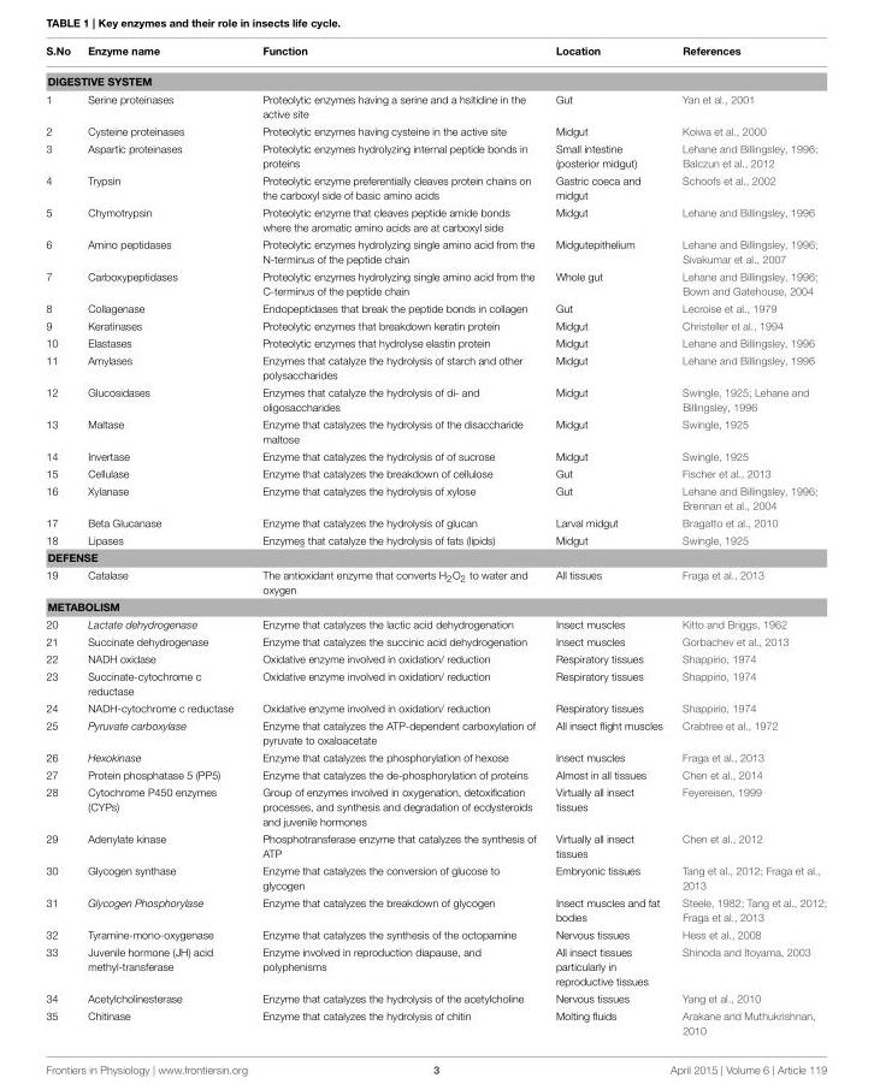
<table><thead><tr><td>S.No</td><td>Enzyme name</td><td>Function</td><td>Location</td><td>References</td></tr></thead><tbody><tr><td colspan="5">DIGESTIVE SYSTEM</td></tr><tr><td>1</td><td>Serine proteinases</td><td>Proteolytic enzymes having a serine and a hsitidine in the active site</td><td>Gut</td><td>Yan et al., 2001</td></tr><tr><td>2</td><td>Cysteine proteinases</td><td>Proteolytic enzymes having cysteine in the active site</td><td>Midgut</td><td>Koiwa et al., 2000</td></tr><tr><td>3</td><td>Aspartic proteinases</td><td>Proteolytic enzymes hydrolyzing internal peptide bonds in proteins</td><td>Small intestine (posterior midgut)</td><td>Lehane and Billingsley, 1996; Balczun et al., 2012</td></tr><tr><td>4</td><td>Trypsin</td><td>Proteolytic enzyme preferentially cleaves protein chains on the carboxyl side of basic amino acids</td><td>Gastric coeca and midgut</td><td>Schoofs et al., 2002</td></tr><tr><td>5</td><td>Chymotrypsin</td><td>Proteolytic enzyme that cleaves peptide amide bonds where the aromatic amino acids are at carboxyl side</td><td>Midgut</td><td>Lehane and Billingsley, 1996</td></tr><tr><td>6</td><td>Amino peptidases</td><td>Proteolytic enzymes hydrolyzing single amino acid from the N-terminus of the peptide chain</td><td>Midgutepithelium</td><td>Lehane and Billingsley, 1996; Sivakumar et al., 2007</td></tr><tr><td>7</td><td>Carboxypeptidases</td><td>Proteolytic enzymes hydrolyzing single amino acid from the C-terminus of the peptide chain</td><td>Whole gut</td><td>Lehane and Billingsley, 1996; Bown and Gatehouse, 2004</td></tr><tr><td>8</td><td>Collagenase</td><td>Endopeptidases that break the peptide bonds in collagen</td><td>Gut</td><td>Lecroise et al., 1979</td></tr><tr><td>9</td><td>Keratinases</td><td>Proteolytic enzymes that breakdown keratin protein</td><td>Midgut</td><td>Christeller et al., 1994</td></tr><tr><td>10</td><td>Elastases</td><td>Proteolytic enzymes that hydrolyse elastin protein</td><td>Midgut</td><td>Lehane and Billingsley, 1996</td></tr><tr><td>11</td><td>Amylases</td><td>Enzymes that catalyze the hydrolysis of starch and other polysaccharides</td><td>Midgut</td><td>Lehane and Billingsley, 1996</td></tr><tr><td>12</td><td>Glucosidases</td><td>Enzymes that catalyze the hydrolysis of di- and oligosaccharides</td><td>Midgut</td><td>Swingle, 1925; Lehane and Billingsley, 1996</td></tr><tr><td>13</td><td>Maltase</td><td>Enzyme that catalyzes the hydrolysis of the disaccharide maltose</td><td>Midgut</td><td>Swingle, 1925</td></tr><tr><td>14</td><td>Invertase</td><td>Enzyme that catalyzes the hydrolysis of of sucrose</td><td>Midgut</td><td>Swingle, 1925</td></tr><tr><td>15</td><td>Cellulase</td><td>Enzyme that catalyzes the breakdown of cellulose</td><td>Gut</td><td>Fischer et al., 2013</td></tr><tr><td>16</td><td>Xylanase</td><td>Enzyme that catalyzes the hydrolysis of xylose</td><td>Gut</td><td>Lehane and Billingsley, 1996; Brennan et al., 2004</td></tr><tr><td>17</td><td>Beta Glucanase</td><td>Enzyme that catalyzes the hydrolysis of glucan</td><td>Larval midgut</td><td>Bragatto et al., 2010</td></tr><tr><td>18</td><td>Lipases</td><td>Enzymes that catalyze the hydrolysis of fats (lipids)</td><td>Midgut</td><td>Swingle, 1925</td></tr><tr><td colspan="5">DEFENSE</td></tr><tr><td>19</td><td>Catalase</td><td>The antioxidant enzyme that converts H<sub>2</sub>O<sub>2</sub> to water and oxygen</td><td>All tissues</td><td>Fraga et al., 2013</td></tr><tr><td colspan="5">METABOLISM</td></tr><tr><td>20</td><td>Lactate dehydrogenase</td><td>Enzyme that catalyzes the lactic acid dehydrogenation</td><td>Insect muscles</td><td>Kitto and Briggs, 1962</td></tr><tr><td>21</td><td>Succinate dehydrogenase</td><td>Enzyme that catalyzes the succinic acid dehydrogenation</td><td>Insect muscles</td><td>Gorbachev et al., 2013</td></tr><tr><td>22</td><td>NADH oxidase</td><td>Oxidative enzyme involved in oxidation/ reduction</td><td>Respiratory tissues</td><td>Shappirio, 1974</td></tr><tr><td>23</td><td>Succinate-cytochrome c reductase</td><td>Oxidative enzyme involved in oxidation/ reduction</td><td>Respiratory tissues</td><td>Shappirio, 1974</td></tr><tr><td>24</td><td>NADH-cytochrome c reductase</td><td>Oxidative enzyme involved in oxidation/ reduction</td><td>Respiratory tissues</td><td>Shappirio, 1974</td></tr><tr><td>25</td><td>Pyruvate carboxylase</td><td>Enzyme that catalyzes the ATP-dependent carboxylation of pyruvate to oxaloacetate</td><td>All insect flight muscles</td><td>Crabtree et al., 1972</td></tr><tr><td>26</td><td>Hexokinase</td><td>Enzyme that catalyzes the phosphorylation of hexose</td><td>Insect muscles</td><td>Fraga et al., 2013</td></tr><tr><td>27</td><td>Protein phosphatase 5 (PP5)</td><td>Enzyme that catalyzes the de-phosphorylation of proteins</td><td>Almost in all tissues</td><td>Chen et al., 2014</td></tr><tr><td>28</td><td>Cytochrome P450 enzymes (CYPs)</td><td>Group of enzymes involved in oxygenation, detoxification processes, and synthesis and degradation of ecdysteroids and juvenile hormones</td><td>Virtually all insect tissues</td><td>Feyereisen, 1999</td></tr><tr><td>29</td><td>Adenylate kinase</td><td>Phosphotransferase enzyme that catalyzes the synthesis of ATP</td><td>Virtually all insect tissues</td><td>Chen et al., 2012</td></tr><tr><td>30</td><td>Glycogen synthase</td><td>Enzyme that catalyzes the conversion of glucose to glycogen</td><td>Embryonic tissues</td><td>Tang et al., 2012; Fraga et al., 2013</td></tr><tr><td>31</td><td>Glycogen Phosphorylase</td><td>Enzyme that catalyzes the breakdown of glycogen</td><td>Insect muscles and fat bodies</td><td>Steele, 1982; Tang et al., 2012; Fraga et al., 2013</td></tr><tr><td>32</td><td>Tyramine-mono-oxygenase</td><td>Enzyme that catalyzes the synthesis of the octopamine</td><td>Nervous tissues</td><td>Hess et al., 2008</td></tr><tr><td>33</td><td>Juvenile hormone (JH) acid methyl-transferase</td><td>Enzyme involved in reproduction diapause, and polyphenisms</td><td>All insect tissues particularly in reproductive tissues</td><td>Shinoda and Itoyama, 2003</td></tr><tr><td>34</td><td>Acetylcholinesterase</td><td>Enzyme that catalyzes the hydrolysis of the acetylcholine</td><td>Nervous tissues</td><td>Yang et al., 2010</td></tr><tr><td>35</td><td>Chitinase</td><td>Enzyme that catalyzes the hydrolysis of chitin</td><td>Molting fluids</td><td>Arakane and Muthukrishnan, 2010</td></tr></tbody></table>